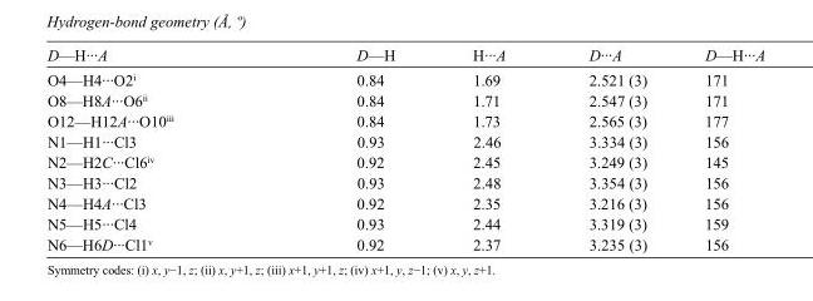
<table><tbody><tr><td>D—H···A</td><td>D—H</td><td>H···A</td><td>D···A</td><td>D—H···A</td></tr><tr><td>O4—H4···O2<sup>i</sup></td><td>0.84</td><td>1.69</td><td>2.521 (3)</td><td>171</td></tr><tr><td>O8—H8A···O6<sup>ii</sup></td><td>0.84</td><td>1.71</td><td>2.547 (3)</td><td>171</td></tr><tr><td>O12—H12A···O10<sup>iii</sup></td><td>0.84</td><td>1.73</td><td>2.565 (3)</td><td>177</td></tr><tr><td>N1—H1···Cl3</td><td>0.93</td><td>2.46</td><td>3.334 (3)</td><td>156</td></tr><tr><td>N2—H2C···Cl6<sup>iv</sup></td><td>0.92</td><td>2.45</td><td>3.249 (3)</td><td>145</td></tr><tr><td>N3—H3···Cl2</td><td>0.93</td><td>2.48</td><td>3.354 (3)</td><td>156</td></tr><tr><td>N4—H4A···Cl3</td><td>0.92</td><td>2.35</td><td>3.216 (3)</td><td>156</td></tr><tr><td>N5—H5···Cl4</td><td>0.93</td><td>2.44</td><td>3.319 (3)</td><td>159</td></tr><tr><td>N6—H6D···Cl1<sup>v</sup></td><td>0.92</td><td>2.37</td><td>3.235 (3)</td><td>156</td></tr></tbody></table>